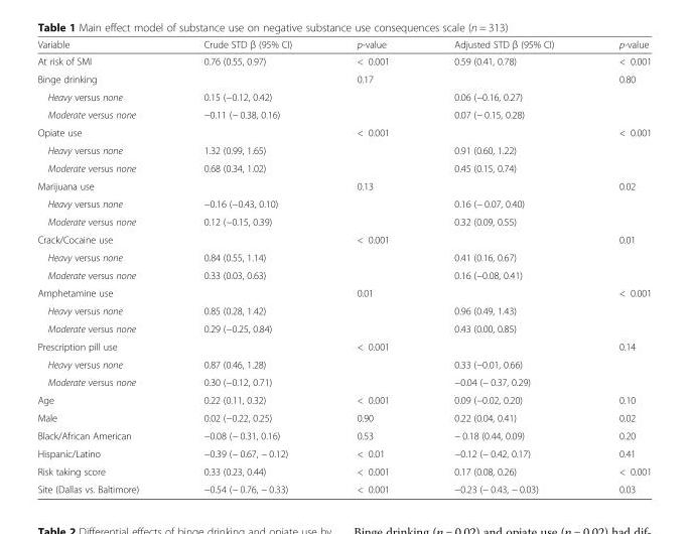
<table><thead><tr><td>Variable</td><td>Crude STD β (95% CI)</td><td>p-value</td><td>Adjusted STD β (95% CI)</td><td>p-value</td></tr></thead><tbody><tr><td>At risk of SMI</td><td>0.76 (0.55, 0.97)</td><td>&lt; 0.001</td><td>0.59 (0.41, 0.78)</td><td>&lt; 0.001</td></tr><tr><td>Binge drinking</td><td></td><td>0.17</td><td></td><td>0.80</td></tr><tr><td>Heavy versus none</td><td>0.15 (−0.12, 0.42)</td><td></td><td>0.06 (−0.16, 0.27)</td><td></td></tr><tr><td>Moderate versus none</td><td>−0.11 (− 0.38, 0.16)</td><td></td><td>0.07 (− 0.15, 0.28)</td><td></td></tr><tr><td>Opiate use</td><td></td><td>&lt; 0.001</td><td></td><td>&lt; 0.001</td></tr><tr><td>Heavy versus none</td><td>1.32 (0.99, 1.65)</td><td></td><td>0.91 (0.60, 1.22)</td><td></td></tr><tr><td>Moderate versus none</td><td>0.68 (0.34, 1.02)</td><td></td><td>0.45 (0.15, 0.74)</td><td></td></tr><tr><td>Marijuana use</td><td></td><td>0.13</td><td></td><td>0.02</td></tr><tr><td>Heavy versus none</td><td>−0.16 (−0.43, 0.10)</td><td></td><td>0.16 (− 0.07, 0.40)</td><td></td></tr><tr><td>Moderate versus none</td><td>0.12 (−0.15, 0.39)</td><td></td><td>0.32 (0.09, 0.55)</td><td></td></tr><tr><td>Crack/Cocaine use</td><td></td><td>&lt; 0.001</td><td></td><td>0.01</td></tr><tr><td>Heavy versus none</td><td>0.84 (0.55, 1.14)</td><td></td><td>0.41 (0.16, 0.67)</td><td></td></tr><tr><td>Moderate versus none</td><td>0.33 (0.03, 0.63)</td><td></td><td>0.16 (−0.08, 0.41)</td><td></td></tr><tr><td>Amphetamine use</td><td></td><td>0.01</td><td></td><td>&lt; 0.001</td></tr><tr><td>Heavy versus none</td><td>0.85 (0.28, 1.42)</td><td></td><td>0.96 (0.49, 1.43)</td><td></td></tr><tr><td>Moderate versus none</td><td>0.29 (−0.25, 0.84)</td><td></td><td>0.43 (0.00, 0.85)</td><td></td></tr><tr><td>Prescription pill use</td><td></td><td>&lt; 0.001</td><td></td><td>0.14</td></tr><tr><td>Heavy versus none</td><td>0.87 (0.46, 1.28)</td><td></td><td>0.33 (−0.01, 0.66)</td><td></td></tr><tr><td>Moderate versus none</td><td>0.30 (−0.12, 0.71)</td><td></td><td>−0.04 (− 0.37, 0.29)</td><td></td></tr><tr><td>Age</td><td>0.22 (0.11, 0.32)</td><td>&lt; 0.001</td><td>0.09 (−0.02, 0.20)</td><td>0.10</td></tr><tr><td>Male</td><td>0.02 (−0.22, 0.25)</td><td>0.90</td><td>0.22 (0.04, 0.41)</td><td>0.02</td></tr><tr><td>Black/African American</td><td>−0.08 (− 0.31, 0.16)</td><td>0.53</td><td>− 0.18 (0.44, 0.09)</td><td>0.20</td></tr><tr><td>Hispanic/Latino</td><td>−0.39 (− 0.67, − 0.12)</td><td>&lt; 0.01</td><td>−0.12 (− 0.42, 0.17)</td><td>0.41</td></tr><tr><td>Risk taking score</td><td>0.33 (0.23, 0.44)</td><td>&lt; 0.001</td><td>0.17 (0.08, 0.26)</td><td>&lt; 0.001</td></tr><tr><td>Site (Dallas vs. Baltimore)</td><td>−0.54 (− 0.76, − 0.33)</td><td>&lt; 0.001</td><td>−0.23 (− 0.43, − 0.03)</td><td>0.03</td></tr></tbody></table>